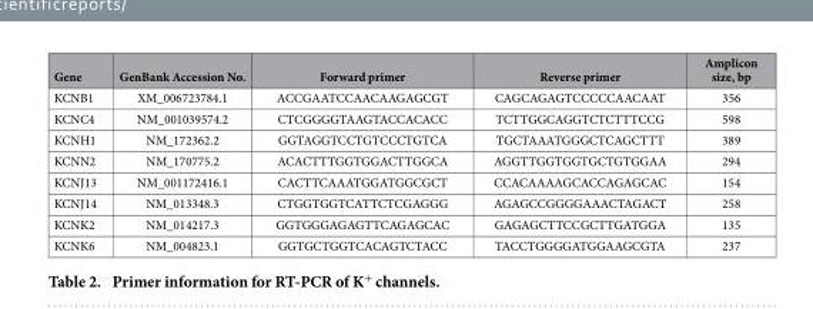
<table><thead><tr><td>Gene</td><td>GenBank Accession No.</td><td>Forward primer</td><td>Reverse primer</td><td>Amplicon size, bp</td></tr></thead><tbody><tr><td>KCNB1</td><td>XM_006723784.1</td><td>ACCGAATCCAACAAGAGCGT</td><td>CAGCAGAGTCCCCCAACAAT</td><td>356</td></tr><tr><td>KCNC4</td><td>NM_001039574.2</td><td>CTCGGGGTAAGTACCACACC</td><td>TCTTGGCAGGTCTCTTTCCG</td><td>598</td></tr><tr><td>KCNH1</td><td>NM_172362.2</td><td>GGTAGGTCCTGTCCCTGTCA</td><td>TGCTAAATGGGCTCAGCTTT</td><td>389</td></tr><tr><td>KCNN2</td><td>NM_170775.2</td><td>ACACTTTGGTGGACTTGGCA</td><td>AGGTTGGTGGTGCTGTGGAA</td><td>294</td></tr><tr><td>KCNJ13</td><td>NM_001172416.1</td><td>CACTTCAAATGGATGGCGCT</td><td>CCACAAAAGCACCAGAGCAC</td><td>154</td></tr><tr><td>KCNJ14</td><td>NM_013348.3</td><td>CTGGTGGTCATTCTCGAGGG</td><td>AGAGCCGGGGAAACTAGACT</td><td>258</td></tr><tr><td>KCNK2</td><td>NM_014217.3</td><td>GGTGGGAGAGTTCAGAGCAC</td><td>GAGAGCTTCCGCTTGATGGA</td><td>135</td></tr><tr><td>KCNK6</td><td>NM_004823.1</td><td>GGTGCTGGTCACAGTCTACC</td><td>TACCTGGGGATGGAAGCGTA</td><td>237</td></tr></tbody></table>